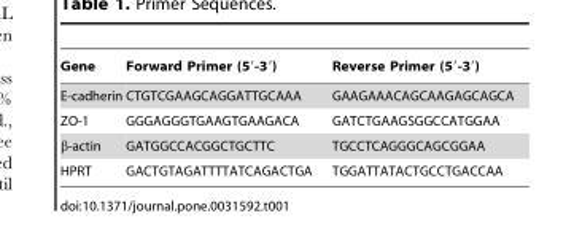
<table><thead><tr><td>Gene</td><td>Forward Primer (5′-3′)</td><td>Reverse Primer (5′-3′)</td></tr></thead><tbody><tr><td>E-cadherin</td><td>CTGTCGAAGCAGGATTGCAAA</td><td>GAAGAAACAGCAAGAGCAGCA</td></tr><tr><td>ZO-1</td><td>GGGAGGGTGAAGTGAAGACA</td><td>GATCTGAAGSGGCCATGGAA</td></tr><tr><td>β-actin</td><td>GATGGCCACGGCTGCTTC</td><td>TGCCTCAGGGCAGCGGAA</td></tr><tr><td>HPRT</td><td>GACTGTAGATTTTATCAGACTGA</td><td>TGGATTATACTGCCTGACCAA</td></tr></tbody></table>